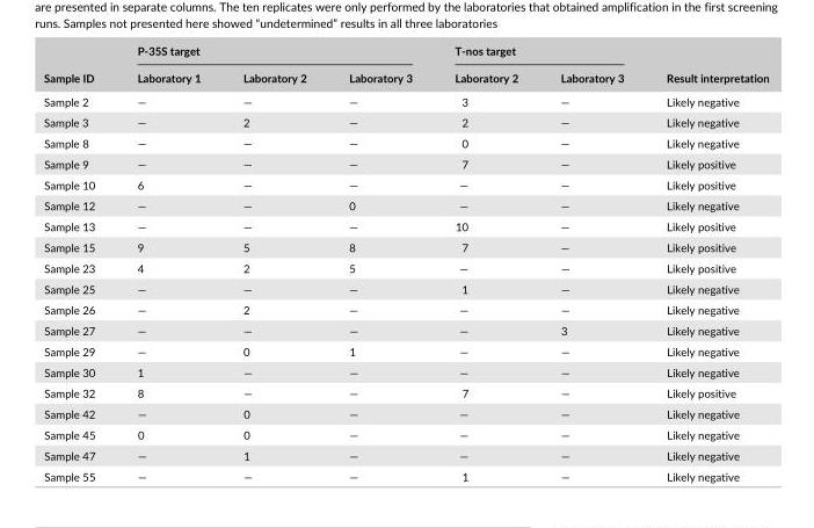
<table><thead><tr><td rowspan="2">Sample ID</td><td colspan="3">P- 35S target</td><td colspan="2">T- nos target</td><td rowspan="2">Result interpretation</td></tr><tr><td>Laboratory 1</td><td>Laboratory 2</td><td>Laboratory 3</td><td>Laboratory 2</td><td>Laboratory 3</td></tr></thead><tbody><tr><td>Sample 2</td><td>—</td><td>—</td><td>—</td><td>3</td><td>—</td><td>Likely negative</td></tr><tr><td>Sample 3</td><td>—</td><td>2</td><td>—</td><td>2</td><td>—</td><td>Likely negative</td></tr><tr><td>Sample 8</td><td>—</td><td>—</td><td>—</td><td>0</td><td>—</td><td>Likely negative</td></tr><tr><td>Sample 9</td><td>—</td><td>—</td><td>—</td><td>7</td><td>—</td><td>Likely positive</td></tr><tr><td>Sample 10</td><td>6</td><td>—</td><td>—</td><td>—</td><td>—</td><td>Likely positive</td></tr><tr><td>Sample 12</td><td>—</td><td>—</td><td>0</td><td>—</td><td>—</td><td>Likely negative</td></tr><tr><td>Sample 13</td><td>—</td><td>—</td><td>—</td><td>10</td><td>—</td><td>Likely positive</td></tr><tr><td>Sample 15</td><td>9</td><td>5</td><td>8</td><td>7</td><td>—</td><td>Likely positive</td></tr><tr><td>Sample 23</td><td>4</td><td>2</td><td>5</td><td>—</td><td>—</td><td>Likely positive</td></tr><tr><td>Sample 25</td><td>—</td><td>—</td><td>—</td><td>1</td><td>—</td><td>Likely negative</td></tr><tr><td>Sample 26</td><td>—</td><td>2</td><td>—</td><td>—</td><td>—</td><td>Likely negative</td></tr><tr><td>Sample 27</td><td>—</td><td>—</td><td>—</td><td>—</td><td>3</td><td>Likely negative</td></tr><tr><td>Sample 29</td><td>—</td><td>0</td><td>1</td><td>—</td><td>—</td><td>Likely negative</td></tr><tr><td>Sample 30</td><td>1</td><td>—</td><td>—</td><td>—</td><td>—</td><td>Likely negative</td></tr><tr><td>Sample 32</td><td>8</td><td>—</td><td>—</td><td>7</td><td>—</td><td>Likely positive</td></tr><tr><td>Sample 42</td><td>—</td><td>0</td><td>—</td><td>—</td><td>—</td><td>Likely negative</td></tr><tr><td>Sample 45</td><td>0</td><td>0</td><td>—</td><td>—</td><td>—</td><td>Likely negative</td></tr><tr><td>Sample 47</td><td>—</td><td>1</td><td>—</td><td>—</td><td>—</td><td>Likely negative</td></tr><tr><td>Sample 55</td><td>—</td><td>—</td><td>—</td><td>1</td><td>—</td><td>Likely negative</td></tr></tbody></table>